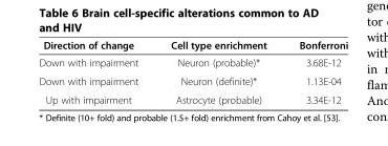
<table><thead><tr><td>Direction of change</td><td>Cell type enrichment</td><td>Bonferroni</td></tr></thead><tbody><tr><td>Down with impairment</td><td>Neuron (probable)*</td><td>3.68E-12</td></tr><tr><td>Down with impairment</td><td>Neuron (definite)*</td><td>1.13E-04</td></tr><tr><td>Up with impairment</td><td>Astrocyte (probable)</td><td>3.34E-12</td></tr></tbody></table>